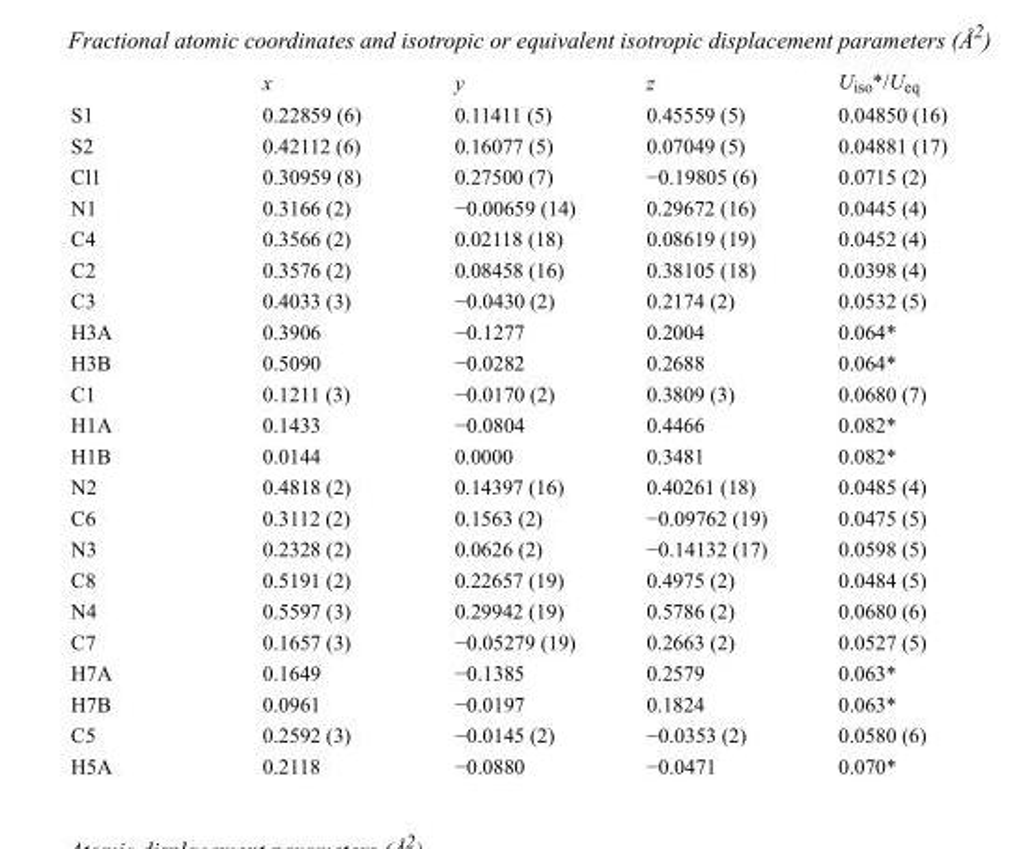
<table><thead><tr><td></td><td>x</td><td>y</td><td>z</td><td>U<sub>iso</sub>*/U<sub>eq</sub></td></tr></thead><tbody><tr><td>S1</td><td>0.22859 (6)</td><td>0.11411 (5)</td><td>0.45559 (5)</td><td>0.04850 (16)</td></tr><tr><td>S2</td><td>0.42112 (6)</td><td>0.16077 (5)</td><td>0.07049 (5)</td><td>0.04881 (17)</td></tr><tr><td>Cl1</td><td>0.30959 (8)</td><td>0.27500 (7)</td><td>−0.19805 (6)</td><td>0.0715 (2)</td></tr><tr><td>N1</td><td>0.3166 (2)</td><td>−0.00659 (14)</td><td>0.29672 (16)</td><td>0.0445 (4)</td></tr><tr><td>C4</td><td>0.3566 (2)</td><td>0.02118 (18)</td><td>0.08619 (19)</td><td>0.0452 (4)</td></tr><tr><td>C2</td><td>0.3576 (2)</td><td>0.08458 (16)</td><td>0.38105 (18)</td><td>0.0398 (4)</td></tr><tr><td>C3</td><td>0.4033 (3)</td><td>−0.0430 (2)</td><td>0.2174 (2)</td><td>0.0532 (5)</td></tr><tr><td>H3A</td><td>0.3906</td><td>−0.1277</td><td>0.2004</td><td>0.064*</td></tr><tr><td>H3B</td><td>0.5090</td><td>−0.0282</td><td>0.2688</td><td>0.064*</td></tr><tr><td>C1</td><td>0.1211 (3)</td><td>−0.0170 (2)</td><td>0.3809 (3)</td><td>0.0680 (7)</td></tr><tr><td>H1A</td><td>0.1433</td><td>−0.0804</td><td>0.4466</td><td>0.082*</td></tr><tr><td>H1B</td><td>0.0144</td><td>0.0000</td><td>0.3481</td><td>0.082*</td></tr><tr><td>N2</td><td>0.4818 (2)</td><td>0.14397 (16)</td><td>0.40261 (18)</td><td>0.0485 (4)</td></tr><tr><td>C6</td><td>0.3112 (2)</td><td>0.1563 (2)</td><td>−0.09762 (19)</td><td>0.0475 (5)</td></tr><tr><td>N3</td><td>0.2328 (2)</td><td>0.0626 (2)</td><td>−0.14132 (17)</td><td>0.0598 (5)</td></tr><tr><td>C8</td><td>0.5191 (2)</td><td>0.22657 (19)</td><td>0.4975 (2)</td><td>0.0484 (5)</td></tr><tr><td>N4</td><td>0.5597 (3)</td><td>0.29942 (19)</td><td>0.5786 (2)</td><td>0.0680 (6)</td></tr><tr><td>C7</td><td>0.1657 (3)</td><td>−0.05279 (19)</td><td>0.2663 (2)</td><td>0.0527 (5)</td></tr><tr><td>H7A</td><td>0.1649</td><td>−0.1385</td><td>0.2579</td><td>0.063*</td></tr><tr><td>H7B</td><td>0.0961</td><td>−0.0197</td><td>0.1824</td><td>0.063*</td></tr><tr><td>C5</td><td>0.2592 (3)</td><td>−0.0145 (2)</td><td>−0.0353 (2)</td><td>0.0580 (6)</td></tr><tr><td>H5A</td><td>0.2118</td><td>−0.0880</td><td>−0.0471</td><td>0.070*</td></tr></tbody></table>